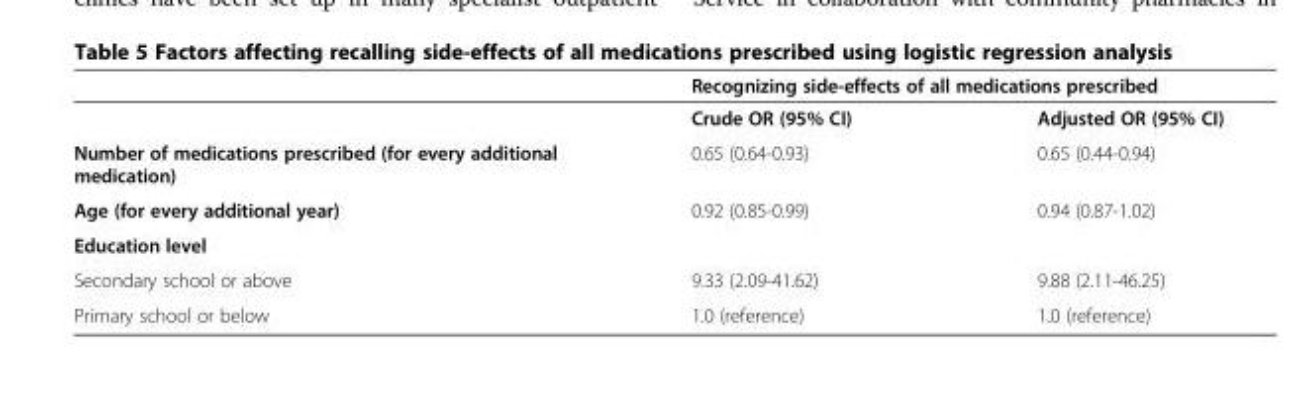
<table><thead><tr><td rowspan="2"></td><td colspan="2">Recognizing side-effects of all medications prescribed</td></tr><tr><td>Crude OR (95% CI)</td><td>Adjusted OR (95% CI)</td></tr></thead><tbody><tr><td>Number of medications prescribed (for every additional medication)</td><td>0.65 (0.64-0.93)</td><td>0.65 (0.44-0.94)</td></tr><tr><td>Age (for every additional year)</td><td>0.92 (0.85-0.99)</td><td>0.94 (0.87-1.02)</td></tr><tr><td colspan="3">Education level</td></tr><tr><td>Secondary school or above</td><td>9.33 (2.09-41.62)</td><td>9.88 (2.11-46.25)</td></tr><tr><td>Primary school or below</td><td>1.0 (reference)</td><td>1.0 (reference)</td></tr></tbody></table>